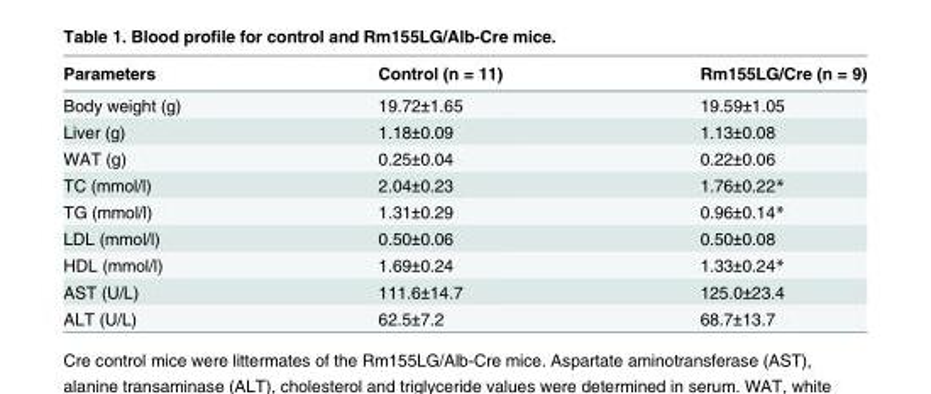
<table><thead><tr><td>Parameters</td><td>Control (n = 11)</td><td>Rm155LG/Cre (n = 9)</td></tr></thead><tbody><tr><td>Body weight (g)</td><td>19.72±1.65</td><td>19.59±1.05</td></tr><tr><td>Liver (g)</td><td>1.18±0.09</td><td>1.13±0.08</td></tr><tr><td>WAT (g)</td><td>0.25±0.04</td><td>0.22±0.06</td></tr><tr><td>TC (mmol/l)</td><td>2.04±0.23</td><td>1.76±0.22*</td></tr><tr><td>TG (mmol/l)</td><td>1.31±0.29</td><td>0.96±0.14*</td></tr><tr><td>LDL (mmol/l)</td><td>0.50±0.06</td><td>0.50±0.08</td></tr><tr><td>HDL (mmol/l)</td><td>1.69±0.24</td><td>1.33±0.24*</td></tr><tr><td>AST (U/L)</td><td>111.6±14.7</td><td>125.0±23.4</td></tr><tr><td>ALT (U/L)</td><td>62.5±7.2</td><td>68.7±13.7</td></tr></tbody></table>